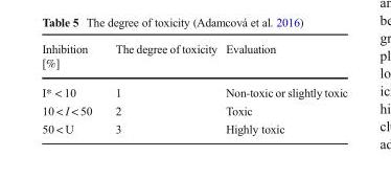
<table><thead><tr><td>Inhibition [%]</td><td>The degree of toxicity</td><td>Evaluation</td></tr></thead><tbody><tr><td>I* &lt; 10</td><td>1</td><td>Non-toxic or slightly toxic</td></tr><tr><td>10 &lt; I &lt; 50</td><td>2</td><td>Toxic</td></tr><tr><td>50 &lt; U</td><td>3</td><td>Highly toxic</td></tr></tbody></table>